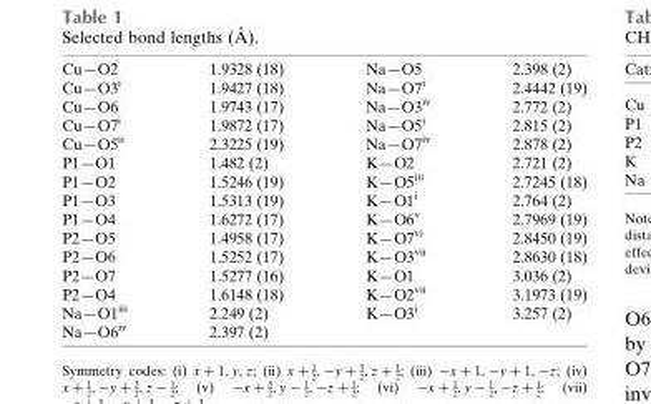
<table><tbody><tr><td>Cu—O2</td><td>1.9328 (18)</td><td>Na—O5</td><td>2.398 (2)</td></tr><tr><td>Cu—O3<sup>i</sup></td><td>1.9427 (18)</td><td>Na—O7<sup>i</sup></td><td>2.4442 (19)</td></tr><tr><td>Cu—O6</td><td>1.9743 (17)</td><td>Na—O3<sup>iv</sup></td><td>2.772 (2)</td></tr><tr><td>Cu—O7<sup>i</sup></td><td>1.9872 (17)</td><td>Na—O5<sup>i</sup></td><td>2.815 (2)</td></tr><tr><td>Cu—O5<sup>ii</sup></td><td>2.3225 (19)</td><td>Na—O7<sup>iv</sup></td><td>2.878 (2)</td></tr><tr><td>P1—O1</td><td>1.482 (2)</td><td>K—O2</td><td>2.721 (2)</td></tr><tr><td>P1—O2</td><td>1.5246 (19)</td><td>K—O5<sup>iii</sup></td><td>2.7245 (18)</td></tr><tr><td>P1—O3</td><td>1.5313 (19)</td><td>K—O1<sup>i</sup></td><td>2.764 (2)</td></tr><tr><td>P1—O4</td><td>1.6272 (17)</td><td>K—O6<sup>v</sup></td><td>2.7969 (19)</td></tr><tr><td>P2—O5</td><td>1.4958 (17)</td><td>K—O7<sup>vi</sup></td><td>2.8450 (19)</td></tr><tr><td>P2—O6</td><td>1.5252 (17)</td><td>K—O3<sup>vii</sup></td><td>2.8630 (18)</td></tr><tr><td>P2—O7</td><td>1.5277 (16)</td><td>K—O1</td><td>3.036 (2)</td></tr><tr><td>P2—O4</td><td>1.6148 (18)</td><td>K—O2<sup>vii</sup></td><td>3.1973 (19)</td></tr><tr><td>Na—O1<sup>iii</sup></td><td>2.249 (2)</td><td>K—O3<sup>i</sup></td><td>3.257 (2)</td></tr><tr><td>Na—O6<sup>iv</sup></td><td>2.397 (2)</td><td></td><td></td></tr></tbody></table>